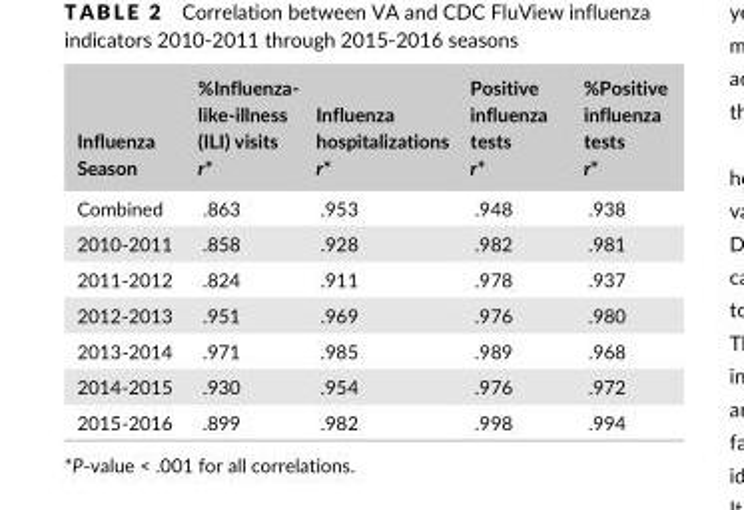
<table><thead><tr><td>Influenza Season</td><td>%Influenza- like- illness (ILI) visits r*</td><td>Influenza hospitalizations r*</td><td>Positive influenza tests r*</td><td>%Positive influenza tests r*</td></tr></thead><tbody><tr><td>Combined</td><td>.863</td><td>.953</td><td>.948</td><td>.938</td></tr><tr><td>2010- 2011</td><td>.858</td><td>.928</td><td>.982</td><td>.981</td></tr><tr><td>2011- 2012</td><td>.824</td><td>.911</td><td>.978</td><td>.937</td></tr><tr><td>2012- 2013</td><td>.951</td><td>.969</td><td>.976</td><td>.980</td></tr><tr><td>2013- 2014</td><td>.971</td><td>.985</td><td>.989</td><td>.968</td></tr><tr><td>2014- 2015</td><td>.930</td><td>.954</td><td>.976</td><td>.972</td></tr><tr><td>2015- 2016</td><td>.899</td><td>.982</td><td>.998</td><td>.994</td></tr></tbody></table>